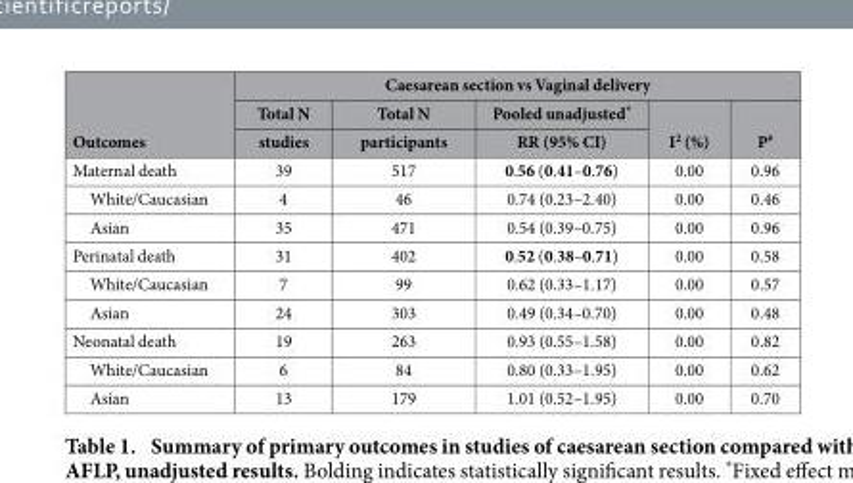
<table><thead><tr><td rowspan="3">Outcomes</td><td colspan="5">Caesarean section vs Vaginal delivery</td></tr><tr><td rowspan="2">Total N studies</td><td rowspan="2">Total N participants</td><td rowspan="2">Pooled unadjusted* RR (95% CI)</td><td rowspan="2">I<sup>2</sup> (%)</td><td rowspan="2">P#</td></tr><tr></tr></thead><tbody><tr><td>Maternal death</td><td>39</td><td>517</td><td>0.56 (0.41–0.76)</td><td>0.00</td><td>0.96</td></tr><tr><td>White/Caucasian</td><td>4</td><td>46</td><td>0.74 (0.23–2.40)</td><td>0.00</td><td>0.46</td></tr><tr><td>Asian</td><td>35</td><td>471</td><td>0.54 (0.39–0.75)</td><td>0.00</td><td>0.96</td></tr><tr><td>Perinatal death</td><td>31</td><td>402</td><td>0.52 (0.38–0.71)</td><td>0.00</td><td>0.58</td></tr><tr><td>White/Caucasian</td><td>7</td><td>99</td><td>0.62 (0.33–1.17)</td><td>0.00</td><td>0.57</td></tr><tr><td>Asian</td><td>24</td><td>303</td><td>0.49 (0.34–0.70)</td><td>0.00</td><td>0.48</td></tr><tr><td>Neonatal death</td><td>19</td><td>263</td><td>0.93 (0.55–1.58)</td><td>0.00</td><td>0.82</td></tr><tr><td>White/Caucasian</td><td>6</td><td>84</td><td>0.80 (0.33–1.95)</td><td>0.00</td><td>0.62</td></tr><tr><td>Asian</td><td>13</td><td>179</td><td>1.01 (0.52–1.95)</td><td>0.00</td><td>0.70</td></tr></tbody></table>